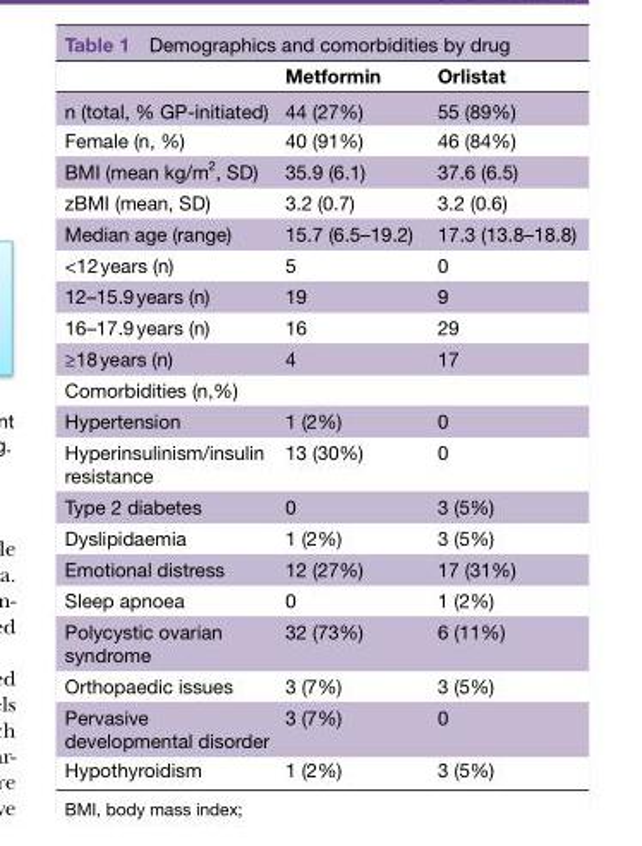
<table><thead><tr><td></td><td>Metformin</td><td>Orlistat</td></tr></thead><tbody><tr><td>n (total, % GP-initiated)</td><td>44 (27%)</td><td>55 (89%)</td></tr><tr><td>Female (n, %)</td><td>40 (91%)</td><td>46 (84%)</td></tr><tr><td>BMI (mean kg/m<sup>2</sup>, SD)</td><td>35.9 (6.1)</td><td>37.6 (6.5)</td></tr><tr><td>zBMI (mean, SD)</td><td>3.2 (0.7)</td><td>3.2 (0.6)</td></tr><tr><td>Median age (range)</td><td>15.7 (6.5–19.2)</td><td>17.3 (13.8–18.8)</td></tr><tr><td>&lt;12 years (n)</td><td>5</td><td>0</td></tr><tr><td>12–15.9 years (n)</td><td>19</td><td>9</td></tr><tr><td>16–17.9 years (n)</td><td>16</td><td>29</td></tr><tr><td>≥18 years (n)</td><td>4</td><td>17</td></tr><tr><td colspan="3">Comorbidities (n,%)</td></tr><tr><td>Hypertension</td><td>1 (2%)</td><td>0</td></tr><tr><td>Hyperinsulinism/insulin resistance</td><td>13 (30%)</td><td>0</td></tr><tr><td>Type 2 diabetes</td><td>0</td><td>3 (5%)</td></tr><tr><td>Dyslipidaemia</td><td>1 (2%)</td><td>3 (5%)</td></tr><tr><td>Emotional distress</td><td>12 (27%)</td><td>17 (31%)</td></tr><tr><td>Sleep apnoea</td><td>0</td><td>1 (2%)</td></tr><tr><td>Polycystic ovarian syndrome</td><td>32 (73%)</td><td>6 (11%)</td></tr><tr><td>Orthopaedic issues</td><td>3 (7%)</td><td>3 (5%)</td></tr><tr><td>Pervasive developmental disorder</td><td>3 (7%)</td><td>0</td></tr><tr><td>Hypothyroidism</td><td>1 (2%)</td><td>3 (5%)</td></tr></tbody></table>